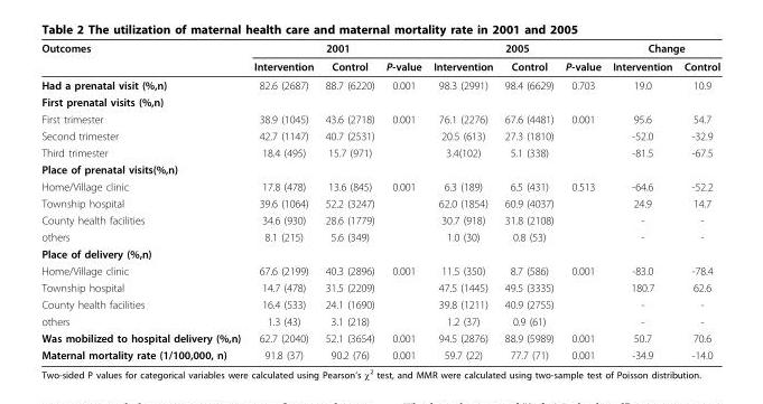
<table><thead><tr><td rowspan="2">Outcomes</td><td colspan="3">2001</td><td colspan="3">2005</td><td colspan="2">Change</td></tr><tr><td>Intervention</td><td>Control</td><td>P-value</td><td>Intervention</td><td>Control</td><td>P-value</td><td>Intervention</td><td>Control</td></tr></thead><tbody><tr><td>Had a prenatal visit (%,n)</td><td>82.6 (2687)</td><td>88.7 (6220)</td><td>0.001</td><td>98.3 (2991)</td><td>98.4 (6629)</td><td>0.703</td><td>19.0</td><td>10.9</td></tr><tr><td colspan="9">First prenatal visits (%,n)</td></tr><tr><td>First trimester</td><td>38.9 (1045)</td><td>43.6 (2718)</td><td>0.001</td><td>76.1 (2276)</td><td>67.6 (4481)</td><td>0.001</td><td>95.6</td><td>54.7</td></tr><tr><td>Second trimester</td><td>42.7 (1147)</td><td>40.7 (2531)</td><td></td><td>20.5 (613)</td><td>27.3 (1810)</td><td></td><td>-52.0</td><td>-32.9</td></tr><tr><td>Third trimester</td><td>18.4 (495)</td><td>15.7 (971)</td><td></td><td>3.4(102)</td><td>5.1 (338)</td><td></td><td>-81.5</td><td>-67.5</td></tr><tr><td colspan="9">Place of prenatal visits(%,n)</td></tr><tr><td>Home/Village clinic</td><td>17.8 (478)</td><td>13.6 (845)</td><td>0.001</td><td>6.3 (189)</td><td>6.5 (431)</td><td>0.513</td><td>-64.6</td><td>-52.2</td></tr><tr><td>Township hospital</td><td>39.6 (1064)</td><td>52.2 (3247)</td><td></td><td>62.0 (1854)</td><td>60.9 (4037)</td><td></td><td>24.9</td><td>14.7</td></tr><tr><td>County health facilities</td><td>34.6 (930)</td><td>28.6 (1779)</td><td></td><td>30.7 (918)</td><td>31.8 (2108)</td><td></td><td>-</td><td>-</td></tr><tr><td>others</td><td>8.1 (215)</td><td>5.6 (349)</td><td></td><td>1.0 (30)</td><td>0.8 (53)</td><td></td><td>-</td><td>-</td></tr><tr><td colspan="9">Place of delivery (%,n)</td></tr><tr><td>Home/Village clinic</td><td>67.6 (2199)</td><td>40.3 (2896)</td><td>0.001</td><td>11.5 (350)</td><td>8.7 (586)</td><td>0.001</td><td>-83.0</td><td>-78.4</td></tr><tr><td>Township hospital</td><td>14.7 (478)</td><td>31.5 (2209)</td><td></td><td>47.5 (1445)</td><td>49.5 (3335)</td><td></td><td>180.7</td><td>62.6</td></tr><tr><td>County health facilities</td><td>16.4 (533)</td><td>24.1 (1690)</td><td></td><td>39.8 (1211)</td><td>40.9 (2755)</td><td></td><td>-</td><td>-</td></tr><tr><td>others</td><td>1.3 (43)</td><td>3.1 (218)</td><td></td><td>1.2 (37)</td><td>0.9 (61)</td><td></td><td>-</td><td>-</td></tr><tr><td>Was mobilized to hospital delivery (%,n)</td><td>62.7 (2040)</td><td>52.1 (3654)</td><td>0.001</td><td>94.5 (2876)</td><td>88.9 (5989)</td><td>0.001</td><td>50.7</td><td>70.6</td></tr><tr><td>Maternal mortality rate (1/100,000, n)</td><td>91.8 (37)</td><td>90.2 (76)</td><td>0.001</td><td>59.7 (22)</td><td>77.7 (71)</td><td>0.001</td><td>-34.9</td><td>-14.0</td></tr></tbody></table>